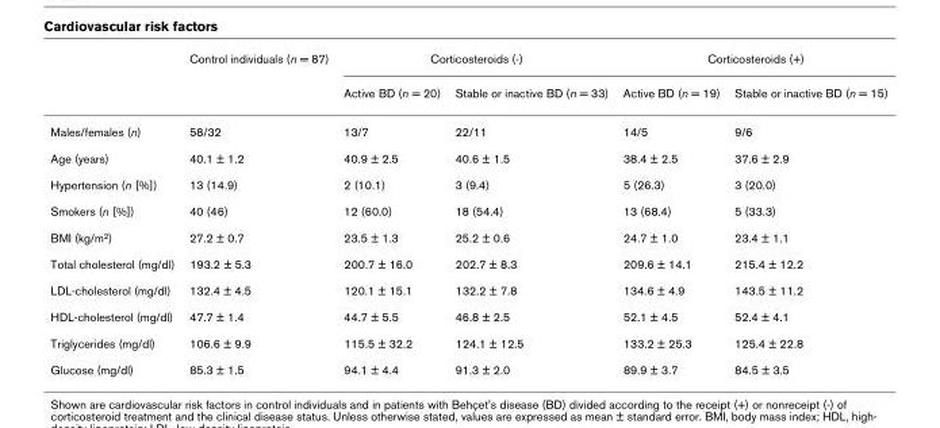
<table><thead><tr><td rowspan="2"></td><td rowspan="2">Control individuals (n = 87)</td><td colspan="2">Corticosteroids (-)</td><td colspan="2">Corticosteroids (+)</td></tr><tr><td>Active BD (n = 20)</td><td>Stable or inactive BD (n = 33)</td><td>Active BD (n = 19)</td><td>Stable or inactive BD (n = 15)</td></tr></thead><tbody><tr><td>Males/females (n)</td><td>58/32</td><td>13/7</td><td>22/11</td><td>14/5</td><td>9/6</td></tr><tr><td>Age (years)</td><td>40.1 ± 1.2</td><td>40.9 ± 2.5</td><td>40.6 ± 1.5</td><td>38.4 ± 2.5</td><td>37.6 ± 2.9</td></tr><tr><td>Hypertension (n [%])</td><td>13 (14.9)</td><td>2 (10.1)</td><td>3 (9.4)</td><td>5 (26.3)</td><td>3 (20.0)</td></tr><tr><td>Smokers (n [%])</td><td>40 (46)</td><td>12 (60.0)</td><td>18 (54.4)</td><td>13 (68.4)</td><td>5 (33.3)</td></tr><tr><td>BMI (kg/m<sup>2</sup>)</td><td>27.2 ± 0.7</td><td>23.5 ± 1.3</td><td>25.2 ± 0.6</td><td>24.7 ± 1.0</td><td>23.4 ± 1.1</td></tr><tr><td>Total cholesterol (mg/dl)</td><td>193.2 ± 5.3</td><td>200.7 ± 16.0</td><td>202.7 ± 8.3</td><td>209.6 ± 14.1</td><td>215.4 ± 12.2</td></tr><tr><td>LDL-cholesterol (mg/dl)</td><td>132.4 ± 4.5</td><td>120.1 ± 15.1</td><td>132.2 ± 7.8</td><td>134.6 ± 4.9</td><td>143.5 ± 11.2</td></tr><tr><td>HDL-cholesterol (mg/dl)</td><td>47.7 ± 1.4</td><td>44.7 ± 5.5</td><td>46.8 ± 2.5</td><td>52.1 ± 4.5</td><td>52.4 ± 4.1</td></tr><tr><td>Triglycerides (mg/dl)</td><td>106.6 ± 9.9</td><td>115.5 ± 32.2</td><td>124.1 ± 12.5</td><td>133.2 ± 25.3</td><td>125.4 ± 22.8</td></tr><tr><td>Glucose (mg/dl)</td><td>85.3 ± 1.5</td><td>94.1 ± 4.4</td><td>91.3 ± 2.0</td><td>89.9 ± 3.7</td><td>84.5 ± 3.5</td></tr></tbody></table>